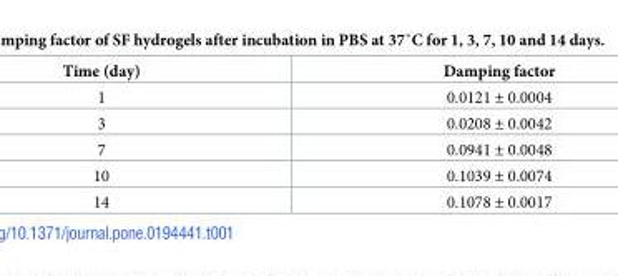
<table><thead><tr><td>Time (day)</td><td>Damping factor</td></tr></thead><tbody><tr><td>1</td><td>0.0121 ± 0.0004</td></tr><tr><td>3</td><td>0.0208 ± 0.0042</td></tr><tr><td>7</td><td>0.0941 ± 0.0048</td></tr><tr><td>10</td><td>0.1039 ± 0.0074</td></tr><tr><td>14</td><td>0.1078 ± 0.0017</td></tr></tbody></table>